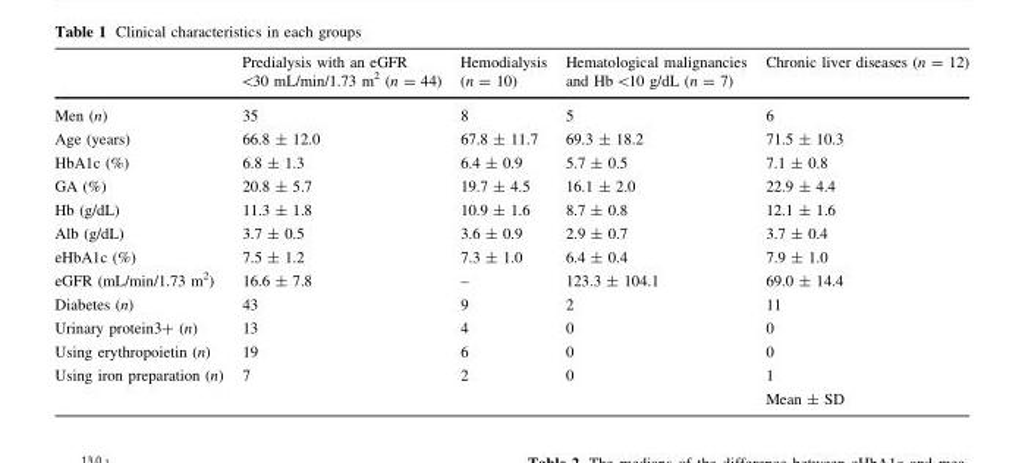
<table><thead><tr><td></td><td>Predialysis with an eGFR &lt;30 mL/min/1.73 m<sup>2</sup> (n = 44)</td><td>Hemodialysis (n = 10)</td><td>Hematological malignancies and Hb &lt;10 g/dL (n = 7)</td><td>Chronic liver diseases (n = 12)</td></tr></thead><tbody><tr><td>Men (n)</td><td>35</td><td>8</td><td>5</td><td>6</td></tr><tr><td>Age (years)</td><td>66.8 ± 12.0</td><td>67.8 ± 11.7</td><td>69.3 ± 18.2</td><td>71.5 ± 10.3</td></tr><tr><td>HbA1c (%)</td><td>6.8 ± 1.3</td><td>6.4 ± 0.9</td><td>5.7 ± 0.5</td><td>7.1 ± 0.8</td></tr><tr><td>GA (%)</td><td>20.8 ± 5.7</td><td>19.7 ± 4.5</td><td>16.1 ± 2.0</td><td>22.9 ± 4.4</td></tr><tr><td>Hb (g/dL)</td><td>11.3 ± 1.8</td><td>10.9 ± 1.6</td><td>8.7 ± 0.8</td><td>12.1 ± 1.6</td></tr><tr><td>Alb (g/dL)</td><td>3.7 ± 0.5</td><td>3.6 ± 0.9</td><td>2.9 ± 0.7</td><td>3.7 ± 0.4</td></tr><tr><td>eHbA1c (%)</td><td>7.5 ± 1.2</td><td>7.3 ± 1.0</td><td>6.4 ± 0.4</td><td>7.9 ± 1.0</td></tr><tr><td>eGFR (mL/min/1.73 m<sup>2</sup>)</td><td>16.6 ± 7.8</td><td>–</td><td>123.3 ± 104.1</td><td>69.0 ± 14.4</td></tr><tr><td>Diabetes (n)</td><td>43</td><td>9</td><td>2</td><td>11</td></tr><tr><td>Urinary protein3+ (n)</td><td>13</td><td>4</td><td>0</td><td>0</td></tr><tr><td>Using erythropoietin (n)</td><td>19</td><td>6</td><td>0</td><td>0</td></tr><tr><td>Using iron preparation (n)</td><td>7</td><td>2</td><td>0</td><td>1</td></tr><tr><td colspan="4"></td><td>Mean ± SD</td></tr></tbody></table>